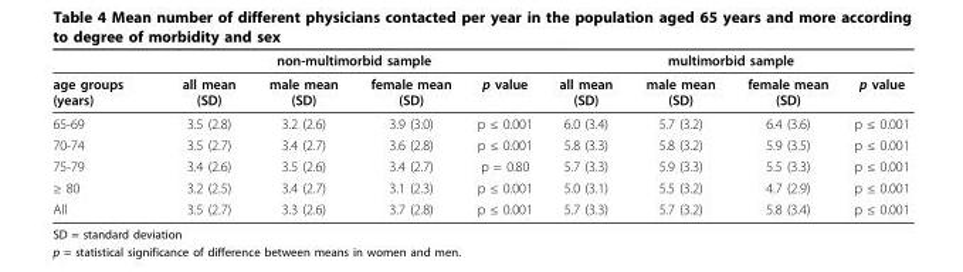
<table><thead><tr><td rowspan="2">age groups (years)</td><td colspan="4">non-multimorbid sample</td><td colspan="4">multimorbid sample</td></tr><tr><td>all mean (SD)</td><td>male mean (SD)</td><td>female mean (SD)</td><td>p value</td><td>all mean (SD)</td><td>male mean (SD)</td><td>female mean (SD)</td><td>p value</td></tr></thead><tbody><tr><td>65-69</td><td>3.5 (2.8)</td><td>3.2 (2.6)</td><td>3.9 (3.0)</td><td>p ≤ 0.001</td><td>6.0 (3.4)</td><td>5.7 (3.2)</td><td>6.4 (3.6)</td><td>p ≤ 0.001</td></tr><tr><td>70-74</td><td>3.5 (2.7)</td><td>3.4 (2.7)</td><td>3.6 (2.8)</td><td>p ≤ 0.001</td><td>5.8 (3.3)</td><td>5.8 (3.2)</td><td>5.9 (3.5)</td><td>p ≤ 0.001</td></tr><tr><td>75-79</td><td>3.4 (2.6)</td><td>3.5 (2.6)</td><td>3.4 (2.7)</td><td>p = 0.80</td><td>5.7 (3.3)</td><td>5.9 (3.3)</td><td>5.5 (3.3)</td><td>p ≤ 0.001</td></tr><tr><td>≥ 80</td><td>3.2 (2.5)</td><td>3.4 (2.7)</td><td>3.1 (2.3)</td><td>p ≤ 0.001</td><td>5.0 (3.1)</td><td>5.5 (3.2)</td><td>4.7 (2.9)</td><td>p ≤ 0.001</td></tr><tr><td>All</td><td>3.5 (2.7)</td><td>3.3 (2.6)</td><td>3.7 (2.8)</td><td>p ≤ 0.001</td><td>5.7 (3.3)</td><td>5.7 (3.2)</td><td>5.8 (3.4)</td><td>p ≤ 0.001</td></tr></tbody></table>